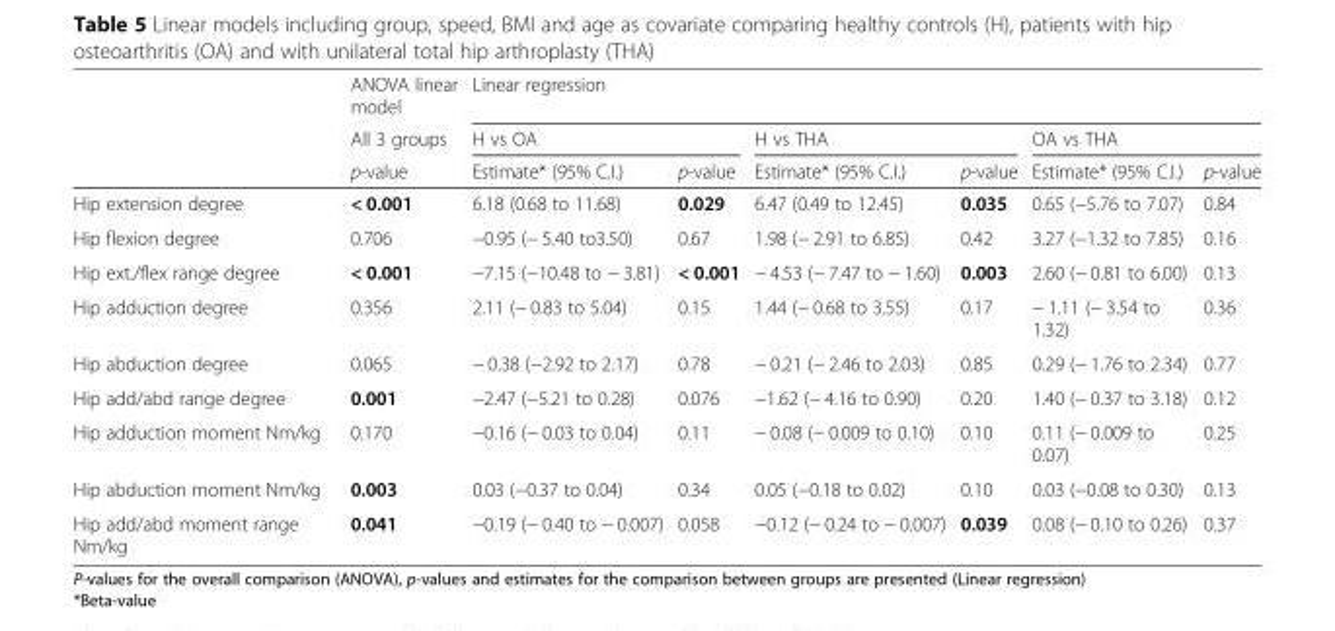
<table><thead><tr><td rowspan="3"></td><td rowspan="3">ANOVA linear model All 3 groups p-value</td><td colspan="6">Linear regression</td></tr><tr><td colspan="2">H vs OA</td><td colspan="2">H vs THA</td><td colspan="2">OA vs THA</td></tr><tr><td>Estimate* (95% C.I.)</td><td>p-value</td><td>Estimate* (95% C.I.)</td><td>p-value</td><td>Estimate* (95% C.I.)</td><td>p-value</td></tr></thead><tbody><tr><td>Hip extension degree</td><td>&lt; 0.001</td><td>6.18 (0.68 to 11.68)</td><td>0.029</td><td>6.47 (0.49 to 12.45)</td><td>0.035</td><td>0.65 (−5.76 to 7.07)</td><td>0.84</td></tr><tr><td>Hip flexion degree</td><td>0.706</td><td>−0.95 (− 5.40 to3.50)</td><td>0.67</td><td>1.98 (− 2.91 to 6.85)</td><td>0.42</td><td>3.27 (−1.32 to 7.85)</td><td>0.16</td></tr><tr><td>Hip ext./flex range degree</td><td>&lt; 0.001</td><td>−7.15 (−10.48 to − 3.81)</td><td>&lt; 0.001</td><td>− 4.53 (− 7.47 to − 1.60)</td><td>0.003</td><td>2.60 (− 0.81 to 6.00)</td><td>0.13</td></tr><tr><td>Hip adduction degree</td><td>0.356</td><td>2.11 (− 0.83 to 5.04)</td><td>0.15</td><td>1.44 (− 0.68 to 3.55)</td><td>0.17</td><td>− 1.11 (− 3.54 to 1.32)</td><td>0.36</td></tr><tr><td>Hip abduction degree</td><td>0.065</td><td>− 0.38 (−2.92 to 2.17)</td><td>0.78</td><td>− 0.21 (− 2.46 to 2.03)</td><td>0.85</td><td>0.29 (− 1.76 to 2.34)</td><td>0.77</td></tr><tr><td>Hip add/abd range degree</td><td>0.001</td><td>−2.47 (−5.21 to 0.28)</td><td>0.076</td><td>−1.62 (− 4.16 to 0.90)</td><td>0.20</td><td>1.40 (− 0.37 to 3.18)</td><td>0.12</td></tr><tr><td>Hip adduction moment Nm/kg</td><td>0.170</td><td>−0.16 (− 0.03 to 0.04)</td><td>0.11</td><td>− 0.08 (− 0.009 to 0.10)</td><td>0.10</td><td>0.11 (− 0.009 to 0.07)</td><td>0.25</td></tr><tr><td>Hip abduction moment Nm/kg</td><td>0.003</td><td>0.03 (−0.37 to 0.04)</td><td>0.34</td><td>0.05 (−0.18 to 0.02)</td><td>0.10</td><td>0.03 (−0.08 to 0.30)</td><td>0.13</td></tr><tr><td>Hip add/abd moment range Nm/kg</td><td>0.041</td><td>−0.19 (− 0.40 to − 0.007)</td><td>0.058</td><td>−0.12 (− 0.24 to − 0.007)</td><td>0.039</td><td>0.08 (− 0.10 to 0.26)</td><td>0.37</td></tr></tbody></table>